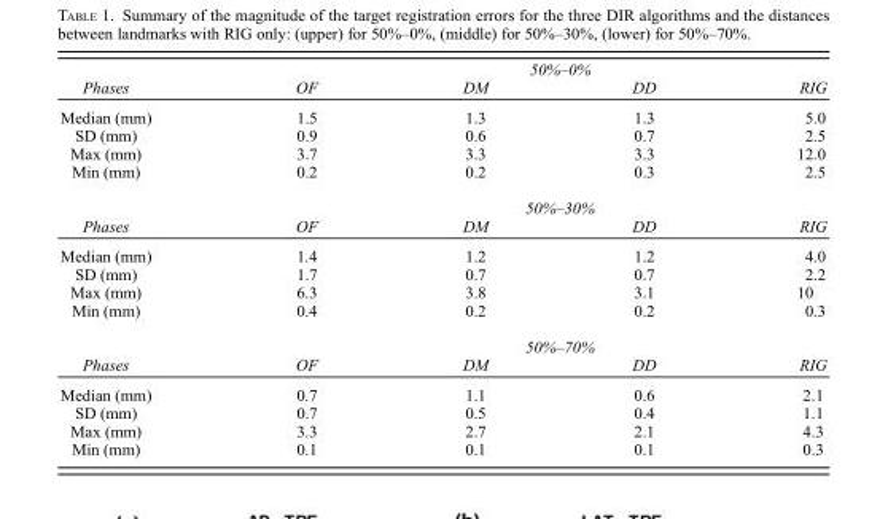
<table><thead><tr><td rowspan="2">Phases</td><td rowspan="2">OF</td><td colspan="2">50%–0%</td><td rowspan="2">RIG</td></tr><tr><td>DM</td><td>DD</td></tr></thead><tbody><tr><td>Median (mm)</td><td>1.5</td><td>1.3</td><td>1.3</td><td>5.0</td></tr><tr><td>SD (mm)</td><td>0.9</td><td>0.6</td><td>0.7</td><td>2.5</td></tr><tr><td>Max (mm)</td><td>3.7</td><td>3.3</td><td>3.3</td><td>12.0</td></tr><tr><td rowspan="2">Min (mm)</td><td>0.2</td><td>0.2</td><td>0.3</td><td>2.5</td></tr><tr><td></td><td colspan="2">50%–30%</td><td></td></tr><tr><td>Phases</td><td>OF</td><td>DM</td><td>DD</td><td>RIG</td></tr><tr><td>Median (mm)</td><td>1.4</td><td>1.2</td><td>1.2</td><td>4.0</td></tr><tr><td>SD (mm)</td><td>1.7</td><td>0.7</td><td>0.7</td><td>2.2</td></tr><tr><td>Max (mm)</td><td>6.3</td><td>3.8</td><td>3.1</td><td>10</td></tr><tr><td rowspan="2">Min (mm)</td><td>0.4</td><td>0.2</td><td>0.2</td><td>0.3</td></tr><tr><td></td><td colspan="2">50%–70%</td><td></td></tr><tr><td>Phases</td><td>OF</td><td>DM</td><td>DD</td><td>RIG</td></tr><tr><td>Median (mm)</td><td>0.7</td><td>1.1</td><td>0.6</td><td>2.1</td></tr><tr><td>SD (mm)</td><td>0.7</td><td>0.5</td><td>0.4</td><td>1.1</td></tr><tr><td>Max (mm)</td><td>3.3</td><td>2.7</td><td>2.1</td><td>4.3</td></tr><tr><td>Min (mm)</td><td>0.1</td><td>0.1</td><td>0.1</td><td>0.3</td></tr></tbody></table>